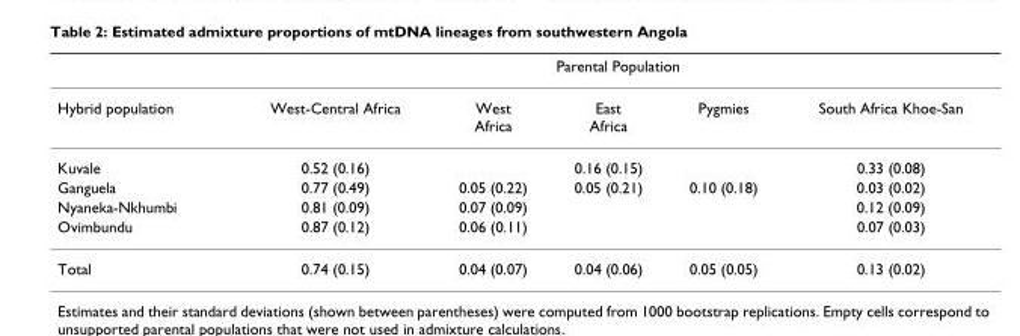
<table><thead><tr><td rowspan="2">Hybrid population</td><td colspan="5">Parental Population</td></tr><tr><td>West-Central Africa</td><td>West Africa</td><td>East Africa</td><td>Pygmies</td><td>South Africa Khoe-San</td></tr></thead><tbody><tr><td>Kuvale</td><td>0.52 (0.16)</td><td></td><td>0.16 (0.15)</td><td></td><td>0.33 (0.08)</td></tr><tr><td>Ganguela</td><td>0.77 (0.49)</td><td>0.05 (0.22)</td><td>0.05 (0.21)</td><td>0.10 (0.18)</td><td>0.03 (0.02)</td></tr><tr><td>Nyaneka-Nkhumbi</td><td>0.81 (0.09)</td><td>0.07 (0.09)</td><td></td><td></td><td>0.12 (0.09)</td></tr><tr><td>Ovimbundu</td><td>0.87 (0.12)</td><td>0.06 (0.11)</td><td></td><td></td><td>0.07 (0.03)</td></tr><tr><td>Total</td><td>0.74 (0.15)</td><td>0.04 (0.07)</td><td>0.04 (0.06)</td><td>0.05 (0.05)</td><td>0.13 (0.02)</td></tr></tbody></table>